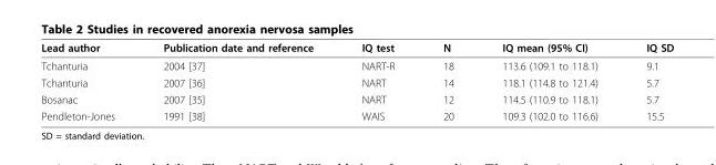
<table><thead><tr><td>Lead author</td><td>Publication date and reference</td><td>IQ test</td><td>N</td><td>IQ mean (95% CI)</td><td>IQ SD</td></tr></thead><tbody><tr><td>Tchanturia</td><td>2004 [37]</td><td>NART-R</td><td>18</td><td>113.6 (109.1 to 118.1)</td><td>9.1</td></tr><tr><td>Tchanturia</td><td>2007 [36]</td><td>NART</td><td>14</td><td>118.1 (114.8 to 121.4)</td><td>5.7</td></tr><tr><td>Bosanac</td><td>2007 [35]</td><td>NART</td><td>12</td><td>114.5 (110.9 to 118.1)</td><td>5.7</td></tr><tr><td>Pendleton-Jones</td><td>1991 [38]</td><td>WAIS</td><td>20</td><td>109.3 (102.0 to 116.6)</td><td>15.5</td></tr></tbody></table>